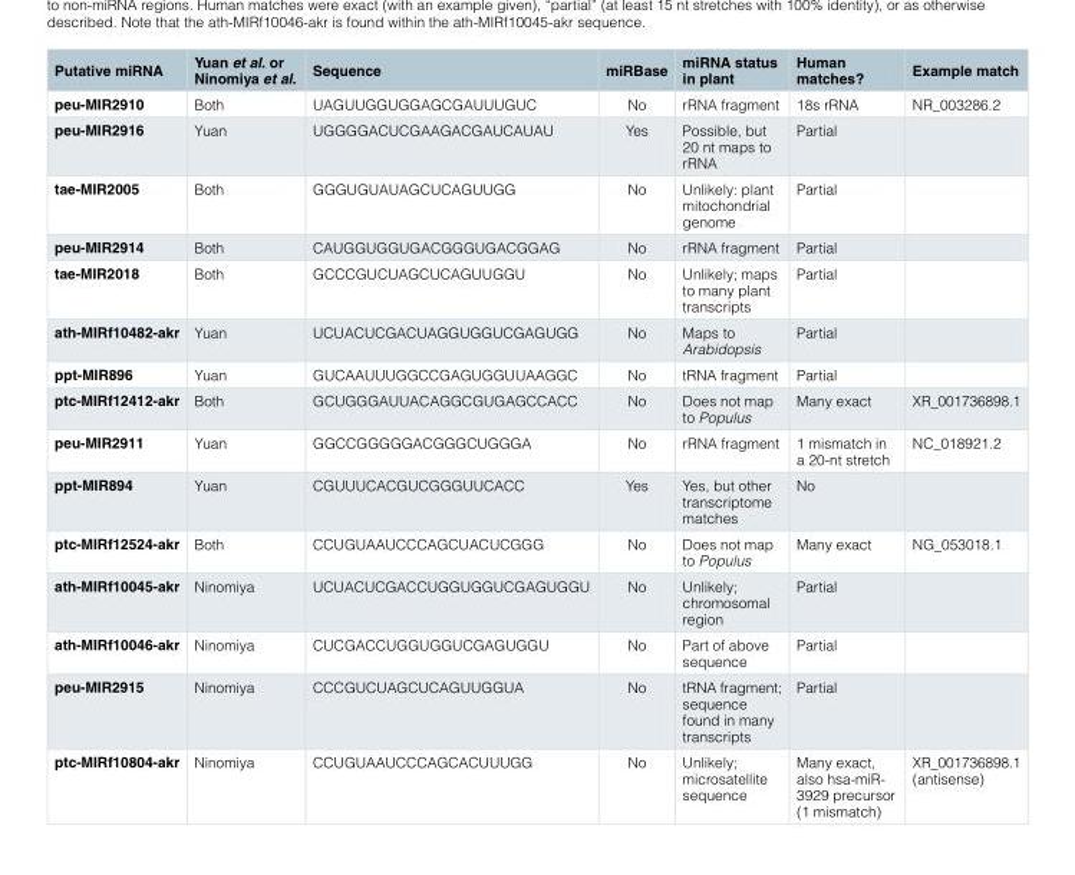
<table><thead><tr><td>Putative miRNA</td><td>Yuan et al. or Ninomiya et al.</td><td>Sequence</td><td>miRBase</td><td>miRNA status in plant</td><td>Human matches?</td><td>Example match</td></tr></thead><tbody><tr><td>peu-MIR2910</td><td>Both</td><td>UAGUUGGUGGAGCGAUUUGUC</td><td>No</td><td>rRNA fragment</td><td>18s rRNA</td><td>NR_003286.2</td></tr><tr><td>peu-MIR2916</td><td>Yuan</td><td>UGGGGACUCGAAGACGAUCAUAU</td><td>Yes</td><td>Possible, but 20 nt maps to rRNA</td><td>Partial</td><td></td></tr><tr><td>tae-MIR2005</td><td>Both</td><td>GGGUGUAUAGCUCAGUUGG</td><td>No</td><td>Unlikely: plant mitochondrial genome</td><td>Partial</td><td></td></tr><tr><td>peu-MIR2914</td><td>Both</td><td>CAUGGUGGUGACGGGUGACGGAG</td><td>No</td><td>rRNA fragment</td><td>Partial</td><td></td></tr><tr><td>tae-MIR2018</td><td>Both</td><td>GCCCGUCUAGCUCAGUUGGU</td><td>No</td><td>Unlikely; maps to many plant transcripts</td><td>Partial</td><td></td></tr><tr><td>ath-MIRf10482-akr</td><td>Yuan</td><td>UCUACUCGACUAGGUGGUCGAGUGG</td><td>No</td><td>Maps to Arabidopsis</td><td>Partial</td><td></td></tr><tr><td>ppt-MIR896</td><td>Yuan</td><td>GUCAAUUUGGCCGAGUGGUUAAGGC</td><td>No</td><td>tRNA fragment</td><td>Partial</td><td></td></tr><tr><td>ptc-MIRf12412-akr</td><td>Both</td><td>GCUGGGAUUACAGGCGUGAGCCACC</td><td>No</td><td>Does not map to Populus</td><td>Many exact</td><td>XR_001736898.1</td></tr><tr><td>peu-MIR2911</td><td>Yuan</td><td>GGCCGGGGGACGGGCUGGGA</td><td>No</td><td>rRNA fragment</td><td>1 mismatch in a 20-nt stretch</td><td>NC_018921.2</td></tr><tr><td>ppt-MIR894</td><td>Yuan</td><td>CGUUUCACGUCGGGUUCACC</td><td>Yes</td><td>Yes, but other transcriptome matches</td><td>No</td><td></td></tr><tr><td>ptc-MIRf12524-akr</td><td>Both</td><td>CCUGUAAUCCCAGCUACUCGGG</td><td>No</td><td>Does not map to Populus</td><td>Many exact</td><td>NG_053018.1</td></tr><tr><td>ath-MIRf10045-akr</td><td>Ninomiya</td><td>UCUACUCGACCUGGUGGUCGAGUGGU</td><td>No</td><td>Unlikely; chromosomal region</td><td>Partial</td><td></td></tr><tr><td>ath-MIRf10046-akr</td><td>Ninomiya</td><td>CUCGACCUGGUGGUCGAGUGGU</td><td>No</td><td>Part of above sequence</td><td>Partial</td><td></td></tr><tr><td>peu-MIR2915</td><td>Ninomiya</td><td>CCCGUCUAGCUCAGUUGGUA</td><td>No</td><td>tRNA fragment; sequence found in many transcripts</td><td>Partial</td><td></td></tr><tr><td>ptc-MIRf10804-akr</td><td>Ninomiya</td><td>CCUGUAAUCCCAGCACUUUGG</td><td>No</td><td>Unlikely; microsatellite sequence</td><td>Many exact, also hsa-miR- 3929 precursor (1 mismatch)</td><td>XR_001736898.1 (antisense)</td></tr></tbody></table>